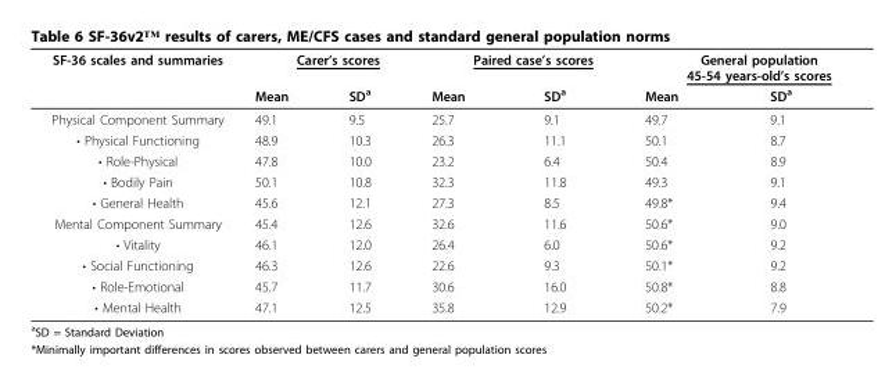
<table><thead><tr><td rowspan="2">SF-36 scales and summaries</td><td colspan="2">Carer’s scores</td><td colspan="2">Paired case’s scores</td><td colspan="2">General population 45-54 years-old’s scores</td></tr><tr><td>Mean</td><td>SD<sup>a</sup></td><td>Mean</td><td>SD<sup>a</sup></td><td>Mean</td><td>SD<sup>a</sup></td></tr></thead><tbody><tr><td>Physical Component Summary</td><td>49.1</td><td>9.5</td><td>25.7</td><td>9.1</td><td>49.7</td><td>9.1</td></tr><tr><td>• Physical Functioning</td><td>48.9</td><td>10.3</td><td>26.3</td><td>11.1</td><td>50.1</td><td>8.7</td></tr><tr><td>• Role-Physical</td><td>47.8</td><td>10.0</td><td>23.2</td><td>6.4</td><td>50.4</td><td>8.9</td></tr><tr><td>• Bodily Pain</td><td>50.1</td><td>10.8</td><td>32.3</td><td>11.8</td><td>49.3</td><td>9.1</td></tr><tr><td>• General Health</td><td>45.6</td><td>12.1</td><td>27.3</td><td>8.5</td><td>49.8*</td><td>9.4</td></tr><tr><td>Mental Component Summary</td><td>45.4</td><td>12.6</td><td>32.6</td><td>11.6</td><td>50.6*</td><td>9.0</td></tr><tr><td>• Vitality</td><td>46.1</td><td>12.0</td><td>26.4</td><td>6.0</td><td>50.6*</td><td>9.2</td></tr><tr><td>• Social Functioning</td><td>46.3</td><td>12.6</td><td>22.6</td><td>9.3</td><td>50.1*</td><td>9.2</td></tr><tr><td>• Role-Emotional</td><td>45.7</td><td>11.7</td><td>30.6</td><td>16.0</td><td>50.8*</td><td>8.8</td></tr><tr><td>• Mental Health</td><td>47.1</td><td>12.5</td><td>35.8</td><td>12.9</td><td>50.2*</td><td>7.9</td></tr></tbody></table>